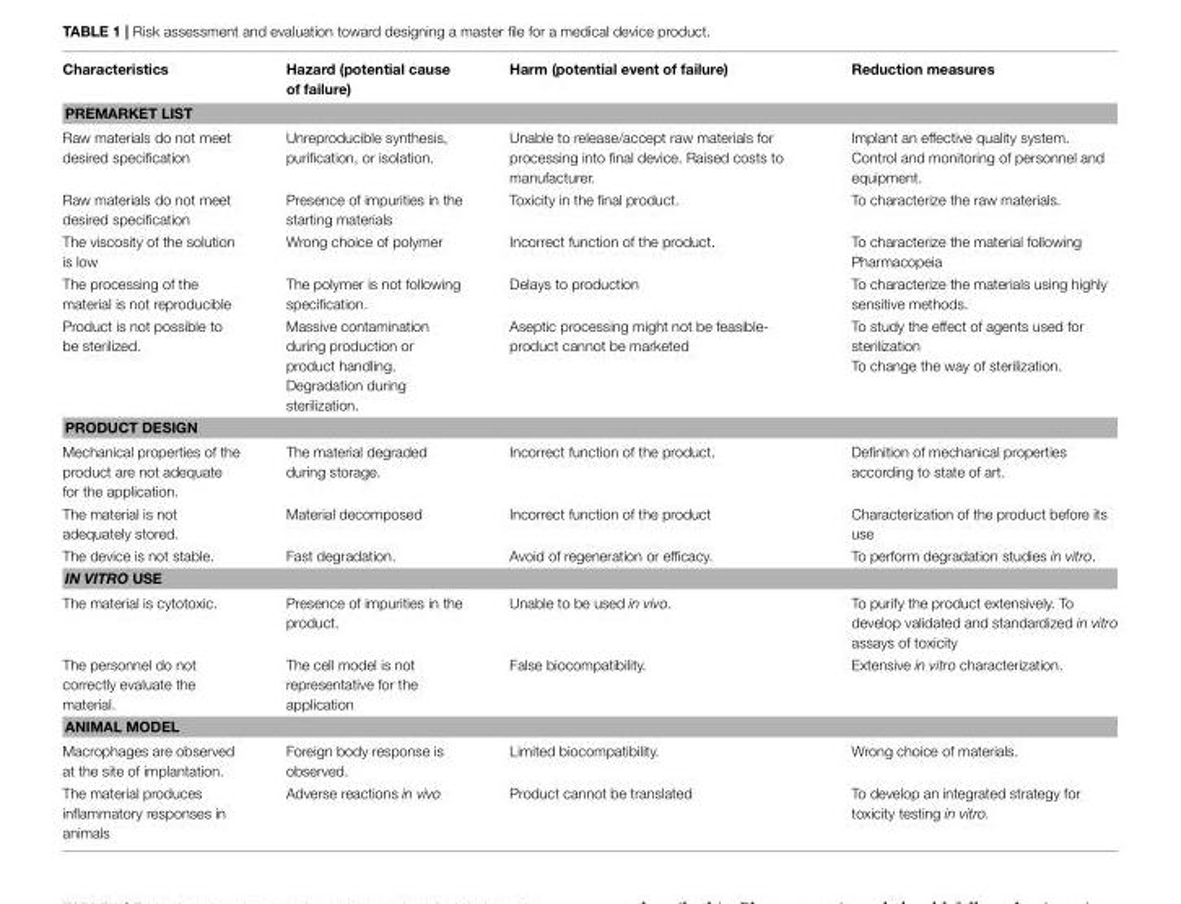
<table><thead><tr><td>Characteristics</td><td>Hazard (potential cause of failure)</td><td>Harm (potential event of failure)</td><td>Reduction measures</td></tr></thead><tbody><tr><td colspan="4">PREMARKET LIST</td></tr><tr><td>Raw materials do not meet desired specification</td><td>Unreproducible synthesis, purification, or isolation.</td><td>Unable to release/accept raw materials for processing into final device. Raised costs to manufacturer.</td><td>Implant an effective quality system. Control and monitoring of personnel and equipment.</td></tr><tr><td>Raw materials do not meet desired specification</td><td>Presence of impurities in the starting materials</td><td>Toxicity in the final product.</td><td>To characterize the raw materials.</td></tr><tr><td>The viscosity of the solution is low</td><td>Wrong choice of polymer</td><td>Incorrect function of the product.</td><td>To characterize the material following Pharmacopeia</td></tr><tr><td>The processing of the material is not reproducible</td><td>The polymer is not following specification.</td><td>Delays to production</td><td>To characterize the materials using highly sensitive methods.</td></tr><tr><td>Product is not possible to be sterilized.</td><td>Massive contamination during production or product handling. Degradation during sterilization.</td><td>Aseptic processing might not be feasible- product cannot be marketed</td><td>To study the effect of agents used for sterilization To change the way of sterilization.</td></tr><tr><td colspan="4">PRODUCT DESIGN</td></tr><tr><td>Mechanical properties of the product are not adequate for the application.</td><td>The material degraded during storage.</td><td>Incorrect function of the product.</td><td>Definition of mechanical properties according to state of art.</td></tr><tr><td>The material is not adequately stored.</td><td>Material decomposed</td><td>Incorrect function of the product</td><td>Characterization of the product before its use</td></tr><tr><td>The device is not stable.</td><td>Fast degradation.</td><td>Avoid of regeneration or efficacy.</td><td>To perform degradation studies in vitro.</td></tr><tr><td colspan="4">IN VITRO USE</td></tr><tr><td>The material is cytotoxic.</td><td>Presence of impurities in the product.</td><td>Unable to be used in vivo.</td><td>To purify the product extensively. To develop validated and standardized in vitro assays of toxicity</td></tr><tr><td>The personnel do not correctly evaluate the material.</td><td>The cell model is not representative for the application</td><td>False biocompatibility.</td><td>Extensive in vitro characterization.</td></tr><tr><td colspan="4">ANIMAL MODEL</td></tr><tr><td>Macrophages are observed at the site of implantation.</td><td>Foreign body response is observed.</td><td>Limited biocompatibility.</td><td>Wrong choice of materials.</td></tr><tr><td>The material produces inflammatory responses in animals</td><td>Adverse reactions in vivo</td><td>Product cannot be translated</td><td>To develop an integrated strategy for toxicity testing in vitro.</td></tr></tbody></table>